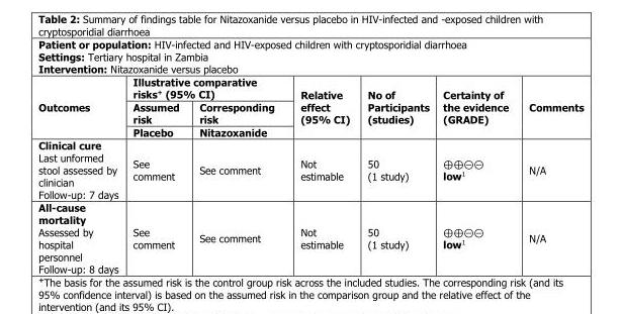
<table><thead><tr><td colspan="7">Patient or population: HIV-infected and HIV-exposed children with cryptosporidial diarrhoea Settings: Tertiary hospital in Zambia Intervention: Nitazoxanide versus placebo</td></tr><tr><td rowspan="3">Outcomes</td><td colspan="2">Illustrative comparative risks<sup>+</sup> (95% CI)</td><td rowspan="3">Relative effect (95% CI)</td><td rowspan="3">No of Participants (studies)</td><td rowspan="3">Certainty of the evidence (GRADE)</td><td rowspan="3">Comments</td></tr><tr><td rowspan="2">Assumed risk Placebo</td><td rowspan="2">Corresponding risk Nitazoxanide</td></tr><tr></tr></thead><tbody><tr><td>Clinical cure Last unformed stool assessed by clinician Follow-up: 7 days</td><td>See comment</td><td>See comment</td><td>Not estimable</td><td>50 (1 study)</td><td>⊕⊕⊝⊝ low<sup>1</sup></td><td>N/A</td></tr><tr><td>All-cause mortality Assessed by hospital personnel Follow-up: 8 days</td><td>See comment</td><td>See comment</td><td>Not estimable</td><td>50 (1 study)</td><td>⊕⊕⊝⊝ low<sup>1</sup></td><td>N/A</td></tr></tbody></table>